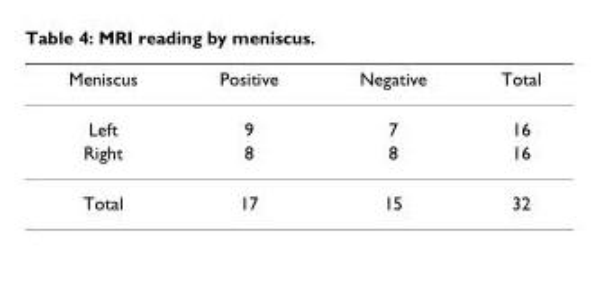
<table><thead><tr><td>Meniscus</td><td>Positive</td><td>Negative</td><td>Total</td></tr></thead><tbody><tr><td>Left</td><td>9</td><td>7</td><td>16</td></tr><tr><td>Right</td><td>8</td><td>8</td><td>16</td></tr><tr><td>Total</td><td>17</td><td>15</td><td>32</td></tr></tbody></table>